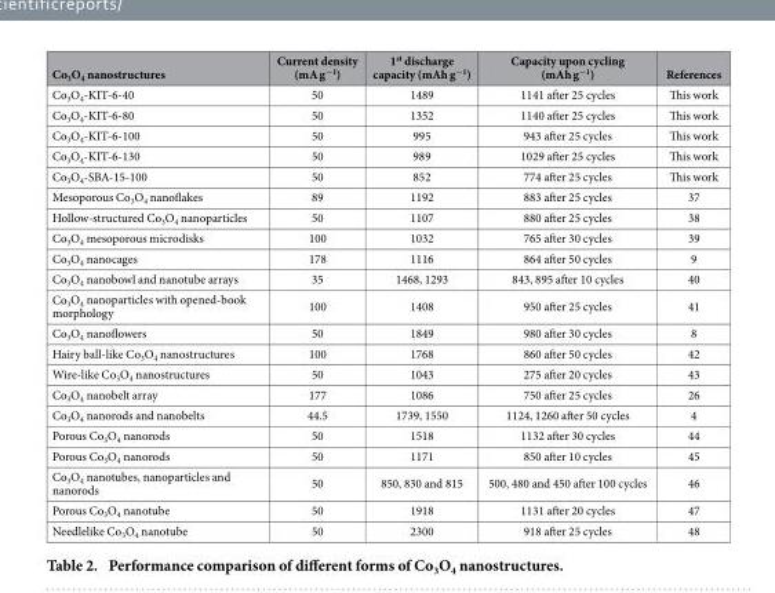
<table><thead><tr><td>Co<sub>3</sub>O<sub>4</sub> nanostructures</td><td>Current density (mA g<sup>−1</sup>)</td><td>1<sup>st</sup> discharge capacity (mAh g<sup>−1</sup>)</td><td>Capacity upon cycling (mAh g<sup>−1</sup>)</td><td>References</td></tr></thead><tbody><tr><td>Co<sub>3</sub>O<sub>4</sub>-KIT-6-40</td><td>50</td><td>1489</td><td>1141 after 25 cycles</td><td>This work</td></tr><tr><td>Co<sub>3</sub>O<sub>4</sub>-KIT-6-80</td><td>50</td><td>1352</td><td>1140 after 25 cycles</td><td>This work</td></tr><tr><td>Co<sub>3</sub>O<sub>4</sub>-KIT-6-100</td><td>50</td><td>995</td><td>943 after 25 cycles</td><td>This work</td></tr><tr><td>Co<sub>3</sub>O<sub>4</sub>-KIT-6-130</td><td>50</td><td>989</td><td>1029 after 25 cycles</td><td>This work</td></tr><tr><td>Co<sub>3</sub>O<sub>4</sub>-SBA-15-100</td><td>50</td><td>852</td><td>774 after 25 cycles</td><td>This work</td></tr><tr><td>Mesoporous Co<sub>3</sub>O<sub>4</sub> nanoflakes</td><td>89</td><td>1192</td><td>883 after 25 cycles</td><td>37</td></tr><tr><td>Hollow-structured Co<sub>3</sub>O<sub>4</sub> nanoparticles</td><td>50</td><td>1107</td><td>880 after 25 cycles</td><td>38</td></tr><tr><td>Co<sub>3</sub>O<sub>4</sub> mesoporous microdisks</td><td>100</td><td>1032</td><td>765 after 30 cycles</td><td>39</td></tr><tr><td>Co<sub>3</sub>O<sub>4</sub> nanocages</td><td>178</td><td>1116</td><td>864 after 50 cycles</td><td>9</td></tr><tr><td>Co<sub>3</sub>O<sub>4</sub> nanobowl and nanotube arrays</td><td>35</td><td>1468, 1293</td><td>843, 895 after 10 cycles</td><td>40</td></tr><tr><td>Co<sub>3</sub>O<sub>4</sub> nanoparticles with opened-book morphology</td><td>100</td><td>1408</td><td>950 after 25 cycles</td><td>41</td></tr><tr><td>Co<sub>3</sub>O<sub>4</sub> nanoflowers</td><td>50</td><td>1849</td><td>980 after 30 cycles</td><td>8</td></tr><tr><td>Hairy ball-like Co<sub>3</sub>O<sub>4</sub> nanostructures</td><td>100</td><td>1768</td><td>860 after 50 cycles</td><td>42</td></tr><tr><td>Wire-like Co<sub>3</sub>O<sub>4</sub> nanostructures</td><td>50</td><td>1043</td><td>275 after 20 cycles</td><td>43</td></tr><tr><td>Co<sub>3</sub>O<sub>4</sub> nanobelt array</td><td>177</td><td>1086</td><td>750 after 25 cycles</td><td>26</td></tr><tr><td>Co<sub>3</sub>O<sub>4</sub> nanorods and nanobelts</td><td>44.5</td><td>1739, 1550</td><td>1124, 1260 after 50 cycles</td><td>4</td></tr><tr><td>Porous Co<sub>3</sub>O<sub>4</sub> nanorods</td><td>50</td><td>1518</td><td>1132 after 30 cycles</td><td>44</td></tr><tr><td>Porous Co<sub>3</sub>O<sub>4</sub> nanorods</td><td>50</td><td>1171</td><td>850 after 10 cycles</td><td>45</td></tr><tr><td>Co<sub>3</sub>O<sub>4</sub> nanotubes, nanoparticles and nanorods</td><td>50</td><td>850, 830 and 815</td><td>500, 480 and 450 after 100 cycles</td><td>46</td></tr><tr><td>Porous Co<sub>3</sub>O<sub>4</sub> nanotube</td><td>50</td><td>1918</td><td>1131 after 20 cycles</td><td>47</td></tr><tr><td>Needlelike Co<sub>3</sub>O<sub>4</sub> nanotube</td><td>50</td><td>2300</td><td>918 after 25 cycles</td><td>48</td></tr></tbody></table>